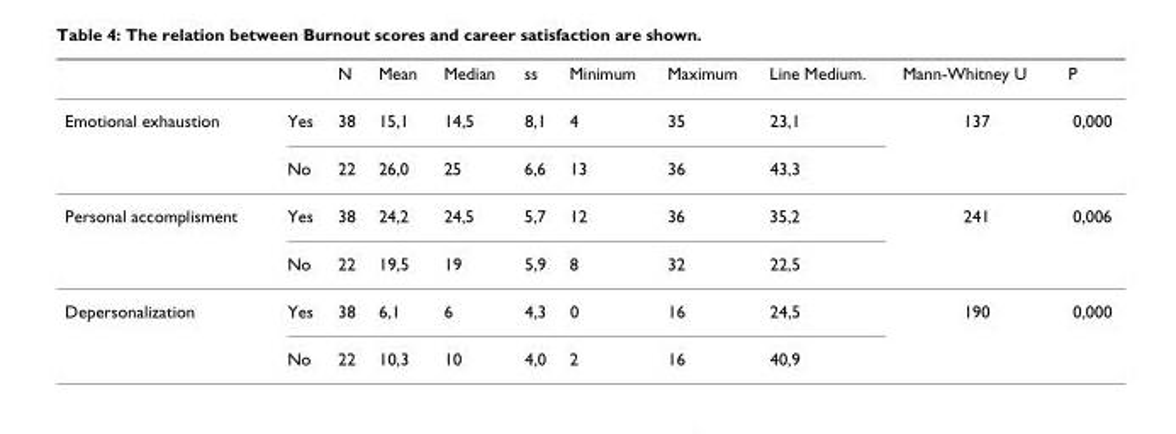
<table><thead><tr><td></td><td></td><td>N</td><td>Mean</td><td>Median</td><td>ss</td><td>Minimum</td><td>Maximum</td><td>Line Medium.</td><td>Mann-Whitney U</td><td>P</td></tr></thead><tbody><tr><td rowspan="2">Emotional exhaustion</td><td>Yes</td><td>38</td><td>15,1</td><td>14,5</td><td>8,1</td><td>4</td><td>35</td><td>23,1</td><td>137</td><td>0,000</td></tr><tr><td>No</td><td>22</td><td>26,0</td><td>25</td><td>6,6</td><td>13</td><td>36</td><td>43,3</td><td></td><td></td></tr><tr><td rowspan="2">Personal accomplisment</td><td>Yes</td><td>38</td><td>24,2</td><td>24,5</td><td>5,7</td><td>12</td><td>36</td><td>35,2</td><td>241</td><td>0,006</td></tr><tr><td>No</td><td>22</td><td>19,5</td><td>19</td><td>5,9</td><td>8</td><td>32</td><td>22,5</td><td></td><td></td></tr><tr><td rowspan="2">Depersonalization</td><td>Yes</td><td>38</td><td>6,1</td><td>6</td><td>4,3</td><td>0</td><td>16</td><td>24,5</td><td>190</td><td>0,000</td></tr><tr><td>No</td><td>22</td><td>10,3</td><td>10</td><td>4,0</td><td>2</td><td>16</td><td>40,9</td><td></td><td></td></tr></tbody></table>